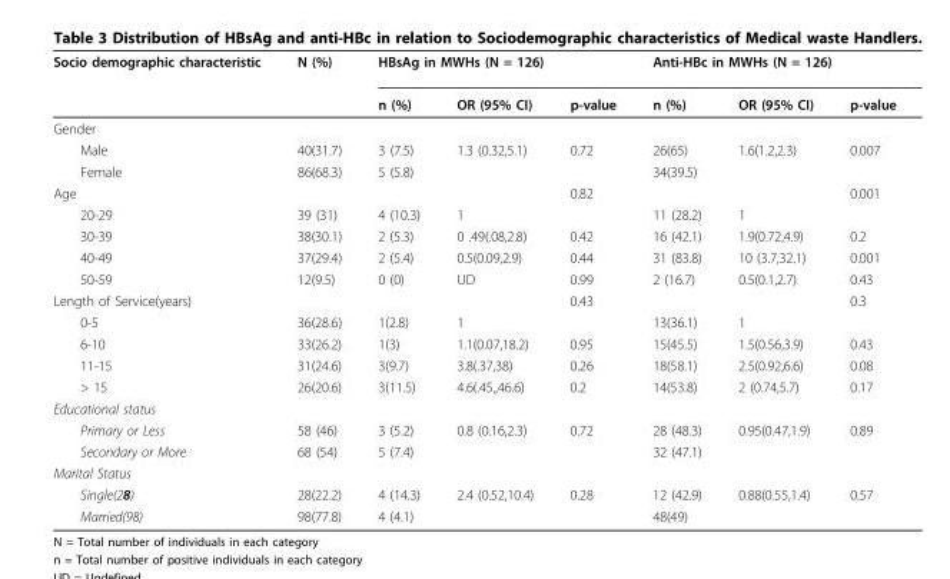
<table><thead><tr><td rowspan="2">Socio demographic characteristic</td><td rowspan="2">N (%)</td><td colspan="3">HBsAg in MWHs (N = 126)</td><td colspan="3">Anti-HBc in MWHs (N = 126)</td></tr><tr><td>n (%)</td><td>OR (95% CI)</td><td>p-value</td><td>n (%)</td><td>OR (95% CI)</td><td>p-value</td></tr></thead><tbody><tr><td colspan="8">Gender</td></tr><tr><td>Male</td><td>40(31.7)</td><td>3 (7.5)</td><td>1.3 (0.32,5.1)</td><td>0.72</td><td>26(65)</td><td>1.6(1.2,2.3)</td><td>0.007</td></tr><tr><td>Female</td><td>86(68.3)</td><td>5 (5.8)</td><td></td><td></td><td>34(39.5)</td><td></td><td></td></tr><tr><td>Age</td><td></td><td></td><td></td><td>0.82</td><td></td><td></td><td>0.001</td></tr><tr><td>20-29</td><td>39 (31)</td><td>4 (10.3)</td><td>1</td><td></td><td>11 (28.2)</td><td>1</td><td></td></tr><tr><td>30-39</td><td>38(30.1)</td><td>2 (5.3)</td><td>0 .49(.08,2.8)</td><td>0.42</td><td>16 (42.1)</td><td>1.9(0.72,4.9)</td><td>0.2</td></tr><tr><td>40-49</td><td>37(29.4)</td><td>2 (5.4)</td><td>0.5(0.09,2.9)</td><td>0.44</td><td>31 (83.8)</td><td>10 (3.7,32.1)</td><td>0.001</td></tr><tr><td>50-59</td><td>12(9.5)</td><td>0 (0)</td><td>UD</td><td>0.99</td><td>2 (16.7)</td><td>0.5(0.1,2.7)</td><td>0.43</td></tr><tr><td>Length of Service(years)</td><td></td><td></td><td></td><td>0.43</td><td></td><td></td><td>0.3</td></tr><tr><td>0-5</td><td>36(28.6)</td><td>1(2.8)</td><td>1</td><td></td><td>13(36.1)</td><td>1</td><td></td></tr><tr><td>6-10</td><td>33(26.2)</td><td>1(3)</td><td>1.1(0.07,18.2)</td><td>0.95</td><td>15(45.5)</td><td>1.5(0.56,3.9)</td><td>0.43</td></tr><tr><td>11-15</td><td>31(24.6)</td><td>3(9.7)</td><td>3.8(.37,38)</td><td>0.26</td><td>18(58.1)</td><td>2.5(0.92,6.6)</td><td>0.08</td></tr><tr><td>&gt; 15</td><td>26(20.6)</td><td>3(11.5)</td><td>4.6(.45,,46.6)</td><td>0.2</td><td>14(53.8)</td><td>2 (0.74,5.7)</td><td>0.17</td></tr><tr><td colspan="8">Educational status</td></tr><tr><td>Primary or Less</td><td>58 (46)</td><td>3 (5.2)</td><td>0.8 (0.16,2.3)</td><td>0.72</td><td>28 (48.3)</td><td>0.95(0.47,1.9)</td><td>0.89</td></tr><tr><td>Secondary or More</td><td>68 (54)</td><td>5 (7.4)</td><td></td><td></td><td>32 (47.1)</td><td></td><td></td></tr><tr><td colspan="8">Marital Status</td></tr><tr><td>Single(28)</td><td>28(22.2)</td><td>4 (14.3)</td><td>2.4 (0.52,10.4)</td><td>0.28</td><td>12 (42.9)</td><td>0.88(0.55,1.4)</td><td>0.57</td></tr><tr><td>Married(98)</td><td>98(77.8)</td><td>4 (4.1)</td><td></td><td></td><td>48(49)</td><td></td><td></td></tr></tbody></table>